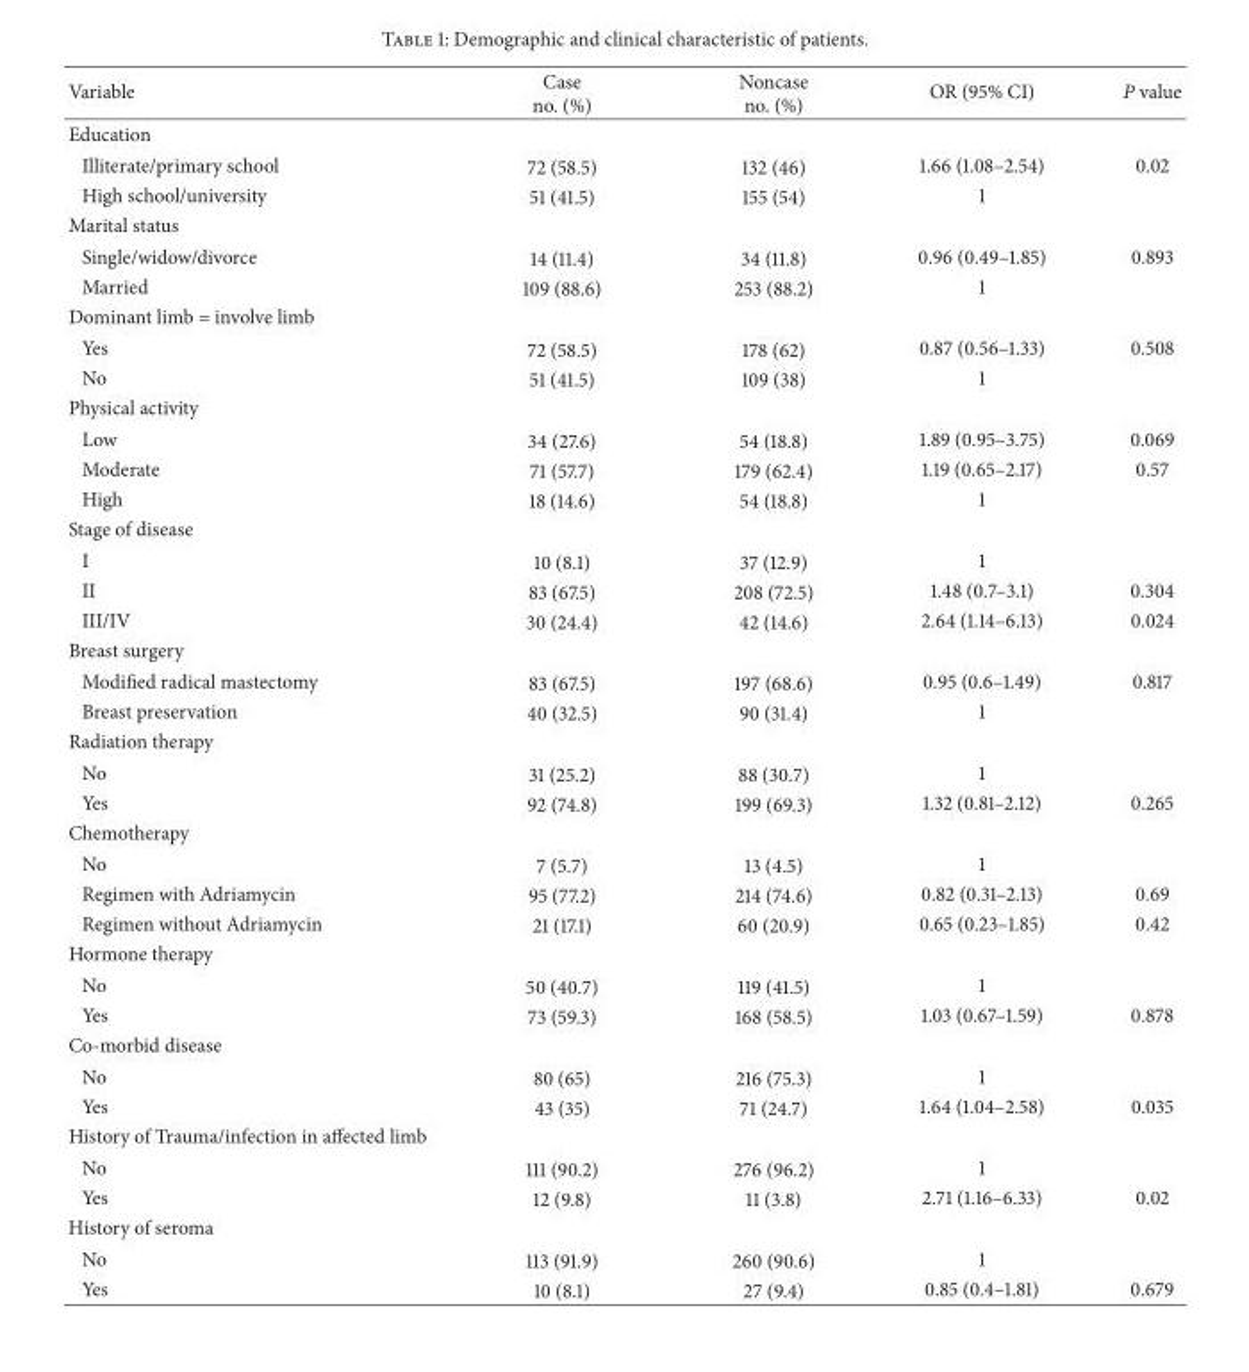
<table><thead><tr><td>Variable</td><td>Case no. (%)</td><td>Noncase no. (%)</td><td>OR (95% CI)</td><td>P value</td></tr></thead><tbody><tr><td colspan="5">Education</td></tr><tr><td>Illiterate/primary school</td><td>72 (58.5)</td><td>132 (46)</td><td>1.66 (1.08–2.54)</td><td>0.02</td></tr><tr><td>High school/university</td><td>51 (41.5)</td><td>155 (54)</td><td>1</td><td></td></tr><tr><td colspan="5">Marital status</td></tr><tr><td>Single/widow/divorce</td><td>14 (11.4)</td><td>34 (11.8)</td><td>0.96 (0.49–1.85)</td><td>0.893</td></tr><tr><td>Married</td><td>109 (88.6)</td><td>253 (88.2)</td><td>1</td><td></td></tr><tr><td colspan="5">Dominant limb = involve limb</td></tr><tr><td>Yes</td><td>72 (58.5)</td><td>178 (62)</td><td>0.87 (0.56–1.33)</td><td>0.508</td></tr><tr><td>No</td><td>51 (41.5)</td><td>109 (38)</td><td>1</td><td></td></tr><tr><td colspan="5">Physical activity</td></tr><tr><td>Low</td><td>34 (27.6)</td><td>54 (18.8)</td><td>1.89 (0.95–3.75)</td><td>0.069</td></tr><tr><td>Moderate</td><td>71 (57.7)</td><td>179 (62.4)</td><td>1.19 (0.65–2.17)</td><td>0.57</td></tr><tr><td>High</td><td>18 (14.6)</td><td>54 (18.8)</td><td>1</td><td></td></tr><tr><td colspan="5">Stage of disease</td></tr><tr><td>I</td><td>10 (8.1)</td><td>37 (12.9)</td><td>1</td><td></td></tr><tr><td>II</td><td>83 (67.5)</td><td>208 (72.5)</td><td>1.48 (0.7–3.1)</td><td>0.304</td></tr><tr><td>III/IV</td><td>30 (24.4)</td><td>42 (14.6)</td><td>2.64 (1.14–6.13)</td><td>0.024</td></tr><tr><td colspan="5">Breast surgery</td></tr><tr><td>Modified radical mastectomy</td><td>83 (67.5)</td><td>197 (68.6)</td><td>0.95 (0.6–1.49)</td><td>0.817</td></tr><tr><td>Breast preservation</td><td>40 (32.5)</td><td>90 (31.4)</td><td>1</td><td></td></tr><tr><td colspan="5">Radiation therapy</td></tr><tr><td>No</td><td>31 (25.2)</td><td>88 (30.7)</td><td>1</td><td></td></tr><tr><td>Yes</td><td>92 (74.8)</td><td>199 (69.3)</td><td>1.32 (0.81–2.12)</td><td>0.265</td></tr><tr><td colspan="5">Chemotherapy</td></tr><tr><td>No</td><td>7 (5.7)</td><td>13 (4.5)</td><td>1</td><td></td></tr><tr><td>Regimen with Adriamycin</td><td>95 (77.2)</td><td>214 (74.6)</td><td>0.82 (0.31–2.13)</td><td>0.69</td></tr><tr><td>Regimen without Adriamycin</td><td>21 (17.1)</td><td>60 (20.9)</td><td>0.65 (0.23–1.85)</td><td>0.42</td></tr><tr><td colspan="5">Hormone therapy</td></tr><tr><td>No</td><td>50 (40.7)</td><td>119 (41.5)</td><td>1</td><td></td></tr><tr><td>Yes</td><td>73 (59.3)</td><td>168 (58.5)</td><td>1.03 (0.67–1.59)</td><td>0.878</td></tr><tr><td colspan="5">Co-morbid disease</td></tr><tr><td>No</td><td>80 (65)</td><td>216 (75.3)</td><td>1</td><td></td></tr><tr><td>Yes</td><td>43 (35)</td><td>71 (24.7)</td><td>1.64 (1.04–2.58)</td><td>0.035</td></tr><tr><td colspan="5">History of Trauma/infection in affected limb</td></tr><tr><td>No</td><td>111 (90.2)</td><td>276 (96.2)</td><td>1</td><td></td></tr><tr><td>Yes</td><td>12 (9.8)</td><td>11 (3.8)</td><td>2.71 (1.16–6.33)</td><td>0.02</td></tr><tr><td colspan="5">History of seroma</td></tr><tr><td>No</td><td>113 (91.9)</td><td>260 (90.6)</td><td>1</td><td></td></tr><tr><td>Yes</td><td>10 (8.1)</td><td>27 (9.4)</td><td>0.85 (0.4–1.81)</td><td>0.679</td></tr></tbody></table>